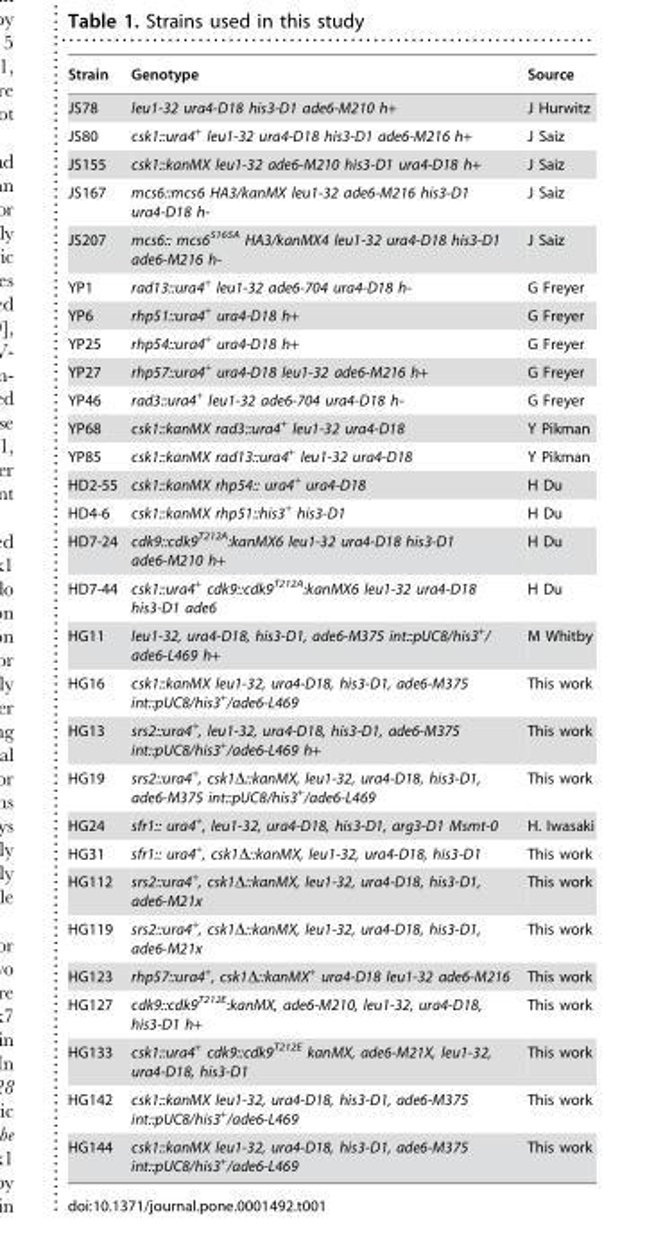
<table><thead><tr><td>Strain</td><td>Genotype</td><td>Source</td></tr></thead><tbody><tr><td>JS78</td><td>leu1-32 ura4-D18 his3-D1 ade6-M210 h+</td><td>J Hurwitz</td></tr><tr><td>JS80</td><td>csk1::ura4<sup>+</sup> leu1-32 ura4-D18 his3-D1 ade6-M216 h+</td><td>J Saiz</td></tr><tr><td>JS155</td><td>csk1::kanMX leu1-32 ade6-M210 his3-D1 ura4-D18 h+</td><td>J Saiz</td></tr><tr><td>JS167</td><td>mcs6::mcs6 HA3/kanMX leu1-32 ade6-M216 his3-D1 ura4-D18 h-</td><td>J Saiz</td></tr><tr><td>JS207</td><td>mcs6:: mcs6<sup>S165A</sup> HA3/kanMX4 leu1-32 ura4-D18 his3-D1 ade6-M216 h-</td><td>J Saiz</td></tr><tr><td>YP1</td><td>rad13::ura4<sup>+</sup> leu1-32 ade6-704 ura4-D18 h-</td><td>G Freyer</td></tr><tr><td>YP6</td><td>rhp51::ura4<sup>+</sup> ura4-D18 h+</td><td>G Freyer</td></tr><tr><td>YP25</td><td>rhp54::ura4<sup>+</sup> ura4-D18 h+</td><td>G Freyer</td></tr><tr><td>YP27</td><td>rhp57::ura4<sup>+</sup> ura4-D18 leu1-32 ade6-M216 h+</td><td>G Freyer</td></tr><tr><td>YP46</td><td>rad3::ura4<sup>+</sup> leu1-32 ade6-704 ura4-D18 h-</td><td>G Freyer</td></tr><tr><td>YP68</td><td>csk1::kanMX rad3::ura4<sup>+</sup> leu1-32 ura4-D18</td><td>Y Pikman</td></tr><tr><td>YP85</td><td>csk1::kanMX rad13::ura4<sup>+</sup> leu1-32 ura4-D18</td><td>Y Pikman</td></tr><tr><td>HD2-55</td><td>csk1::kanMX rhp54:: ura4<sup>+</sup> ura4-D18</td><td>H Du</td></tr><tr><td>HD4-6</td><td>csk1::kanMX rhp51::his3<sup>+</sup> his3-D1</td><td>H Du</td></tr><tr><td>HD7-24</td><td>cdk9::cdk9<sup>T212A</sup>:kanMX6 leu1-32 ura4-D18 his3-D1 ade6-M210 h+</td><td>H Du</td></tr><tr><td>HD7-44</td><td>csk1::ura4<sup>+</sup> cdk9::cdk9<sup>T212A</sup>:kanMX6 leu1-32 ura4-D18 his3-D1 ade6</td><td>H Du</td></tr><tr><td>HG11</td><td>leu1-32, ura4-D18, his3-D1, ade6-M375 int::pUC8/his3<sup>+</sup>/ ade6-L469 h+</td><td>M Whitby</td></tr><tr><td>HG16</td><td>csk1::kanMX leu1-32, ura4-D18, his3-D1, ade6-M375 int::pUC8/his3<sup>+</sup>/ade6-L469</td><td>This work</td></tr><tr><td>HG13</td><td>srs2::ura4<sup>+</sup>, leu1-32, ura4-D18, his3-D1, ade6-M375 int::pUC8/his3<sup>+</sup>/ade6-L469 h+</td><td>This work</td></tr><tr><td>HG19</td><td>srs2::ura4<sup>+</sup>, csk1Δ::kanMX, leu1-32, ura4-D18, his3-D1, ade6-M375 int::pUC8/his3<sup>+</sup>/ade6-L469</td><td>This work</td></tr><tr><td>HG24</td><td>sfr1:: ura4<sup>+</sup>, leu1-32, ura4-D18, his3-D1, arg3-D1 Msmt-0</td><td>H. Iwasaki</td></tr><tr><td>HG31</td><td>sfr1:: ura4<sup>+</sup>, csk1Δ::kanMX, leu1-32, ura4-D18, his3-D1</td><td>This work</td></tr><tr><td>HG112</td><td>srs2::ura4<sup>+</sup>, csk1Δ::kanMX, leu1-32, ura4-D18, his3-D1, ade6-M21x</td><td>This work</td></tr><tr><td>HG119</td><td>srs2::ura4<sup>+</sup>, csk1Δ::kanMX, leu1-32, ura4-D18, his3-D1, ade6-M21x</td><td>This work</td></tr><tr><td>HG123</td><td>rhp57::ura4<sup>+</sup>, csk1Δ::kanMX<sup>+</sup> ura4-D18 leu1-32 ade6-M216</td><td>This work</td></tr><tr><td>HG127</td><td>cdk9::cdk9<sup>T212E</sup>:kanMX, ade6-M210, leu1-32, ura4-D18, his3-D1 h+</td><td>This work</td></tr><tr><td>HG133</td><td>csk1::ura4<sup>+</sup> cdk9::cdk9<sup>T212E</sup> kanMX, ade6-M21X, leu1-32, ura4-D18, his3-D1</td><td>This work</td></tr><tr><td>HG142</td><td>csk1::kanMX leu1-32, ura4-D18, his3-D1, ade6-M375 int::pUC8/his3<sup>+</sup>/ade6-L469</td><td>This work</td></tr><tr><td>HG144</td><td>csk1::kanMX leu1-32, ura4-D18, his3-D1, ade6-M375 int::pUC8/his3<sup>+</sup>/ade6-L469</td><td>This work</td></tr></tbody></table>